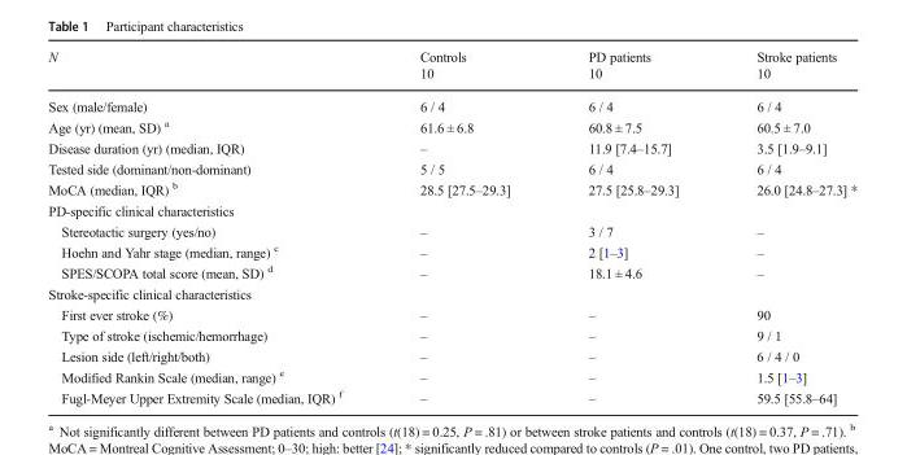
<table><thead><tr><td rowspan="2">N</td><td rowspan="2">Controls 10</td><td rowspan="2">PD patients 10</td><td rowspan="2">Stroke patients 10</td></tr><tr></tr></thead><tbody><tr><td>Sex (male/female)</td><td>6 / 4</td><td>6 / 4</td><td>6 / 4</td></tr><tr><td>Age (yr) (mean, SD) <sup>a</sup></td><td>61.6 ± 6.8</td><td>60.8 ± 7.5</td><td>60.5 ± 7.0</td></tr><tr><td>Disease duration (yr) (median, IQR)</td><td>–</td><td>11.9 [7.4–15.7]</td><td>3.5 [1.9–9.1]</td></tr><tr><td>Tested side (dominant/non-dominant)</td><td>5 / 5</td><td>6 / 4</td><td>6 / 4</td></tr><tr><td>MoCA (median, IQR) <sup>b</sup></td><td>28.5 [27.5–29.3]</td><td>27.5 [25.8–29.3]</td><td>26.0 [24.8–27.3] *</td></tr><tr><td colspan="4">PD-specific clinical characteristics</td></tr><tr><td>Stereotactic surgery (yes/no)</td><td>–</td><td>3 / 7</td><td>–</td></tr><tr><td>Hoehn and Yahr stage (median, range) <sup>c</sup></td><td>–</td><td>2 [1–3]</td><td>–</td></tr><tr><td>SPES/SCOPA total score (mean, SD) <sup>d</sup></td><td>–</td><td>18.1 ± 4.6</td><td>–</td></tr><tr><td colspan="4">Stroke-specific clinical characteristics</td></tr><tr><td>First ever stroke (%)</td><td>–</td><td>–</td><td>90</td></tr><tr><td>Type of stroke (ischemic/hemorrhage)</td><td>–</td><td>–</td><td>9 / 1</td></tr><tr><td>Lesion side (left/right/both)</td><td>–</td><td>–</td><td>6 / 4 / 0</td></tr><tr><td>Modified Rankin Scale (median, range) <sup>e</sup></td><td>–</td><td>–</td><td>1.5 [1–3]</td></tr><tr><td>Fugl-Meyer Upper Extremity Scale (median, IQR) <sup>f</sup></td><td>–</td><td>–</td><td>59.5 [55.8–64]</td></tr></tbody></table>